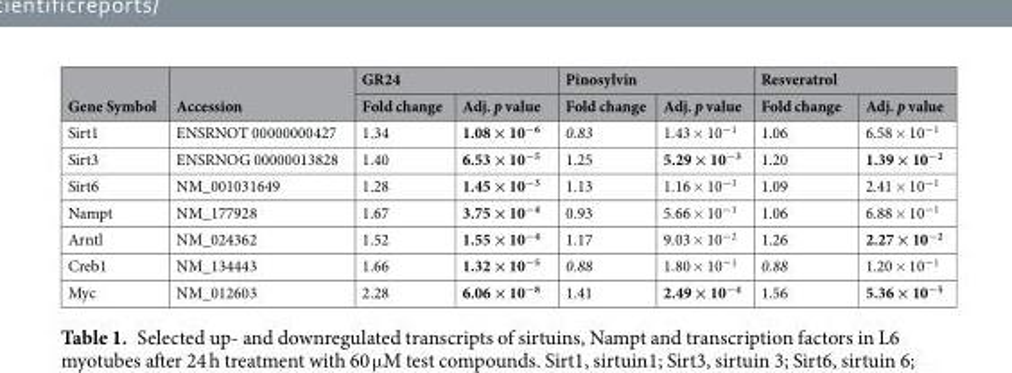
<table><thead><tr><td rowspan="2">Gene Symbol</td><td rowspan="2">Accession</td><td colspan="2">GR24</td><td colspan="2">Pinosylvin</td><td colspan="2">Resveratrol</td></tr><tr><td>Fold change</td><td>Adj. p value</td><td>Fold change</td><td>Adj. p value</td><td>Fold change</td><td>Adj. p value</td></tr></thead><tbody><tr><td>Sirt1</td><td>ENSRNOT 00000000427</td><td>1.34</td><td>1.08 × 10<sup>−6</sup></td><td>0.83</td><td>1.43 × 10<sup>−1</sup></td><td>1.06</td><td>6.58 × 10<sup>−1</sup></td></tr><tr><td>Sirt3</td><td>ENSRNOG 00000013828</td><td>1.40</td><td>6.53 × 10<sup>−5</sup></td><td>1.25</td><td>5.29 × 10<sup>−3</sup></td><td>1.20</td><td>1.39 × 10<sup>−2</sup></td></tr><tr><td>Sirt6</td><td>NM_001031649</td><td>1.28</td><td>1.45 × 10<sup>−3</sup></td><td>1.13</td><td>1.16 × 10<sup>−1</sup></td><td>1.09</td><td>2.41 × 10<sup>−1</sup></td></tr><tr><td>Nampt</td><td>NM_177928</td><td>1.67</td><td>3.75 × 10<sup>−4</sup></td><td>0.93</td><td>5.66 × 10<sup>−1</sup></td><td>1.06</td><td>6.88 × 10<sup>−1</sup></td></tr><tr><td>Arntl</td><td>NM_024362</td><td>1.52</td><td>1.55 × 10<sup>−4</sup></td><td>1.17</td><td>9.03 × 10<sup>−2</sup></td><td>1.26</td><td>2.27 × 10<sup>−2</sup></td></tr><tr><td>Creb1</td><td>NM_134443</td><td>1.66</td><td>1.32 × 10<sup>−5</sup></td><td>0.88</td><td>1.80 × 10<sup>−1</sup></td><td>0.88</td><td>1.20 × 10<sup>−1</sup></td></tr><tr><td>Myc</td><td>NM_012603</td><td>2.28</td><td>6.06 × 10<sup>−8</sup></td><td>1.41</td><td>2.49 × 10<sup>−4</sup></td><td>1.56</td><td>5.36 × 10<sup>−5</sup></td></tr></tbody></table>